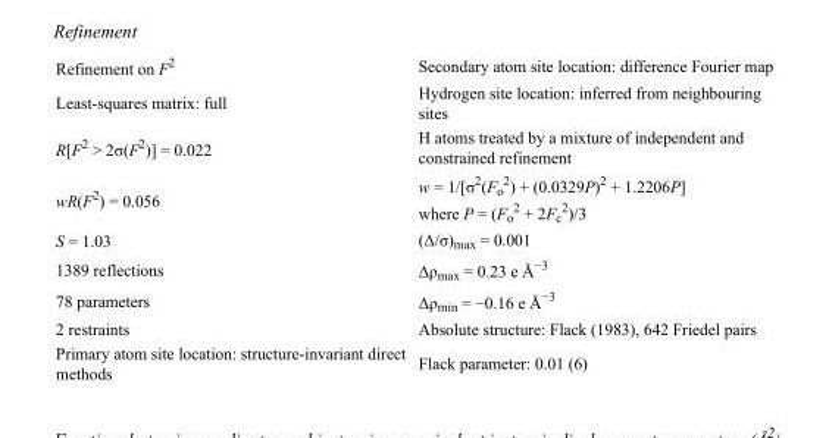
<table><tbody><tr><td>Refinement on F<sup>2</sup></td><td>Secondary atom site location: difference Fourier map</td></tr><tr><td>Least-squares matrix: full</td><td>Hydrogen site location: inferred from neighbouring sites</td></tr><tr><td>R[F<sup>2</sup> &gt; 2σ(F<sup>2</sup>)] = 0.022</td><td>H atoms treated by a mixture of independent and constrained refinement</td></tr><tr><td>wR(F<sup>2</sup>) = 0.056</td><td>w = 1/[σ<sup>2</sup>(F<sub>o</sub> <sup>2</sup>) + (0.0329P)<sup>2</sup> + 1.2206P] where P = (F<sub>o</sub> <sup>2</sup> + 2F<sub>c</sub> <sup>2</sup>)/3</td></tr><tr><td>S = 1.03</td><td>(Δ/σ)<sub>max</sub> = 0.001</td></tr><tr><td>1389 reflections</td><td>Δρ<sub>max</sub> = 0.23 e Å<sup>−3</sup></td></tr><tr><td>78 parameters</td><td>Δρ<sub>min</sub> = −0.16 e Å<sup>−3</sup></td></tr><tr><td>2 restraints</td><td>Absolute structure: Flack (1983), 642 Friedel pairs</td></tr><tr><td>Primary atom site location: structure-invariant direct methods</td><td>Flack parameter: 0.01 (6)</td></tr></tbody></table>